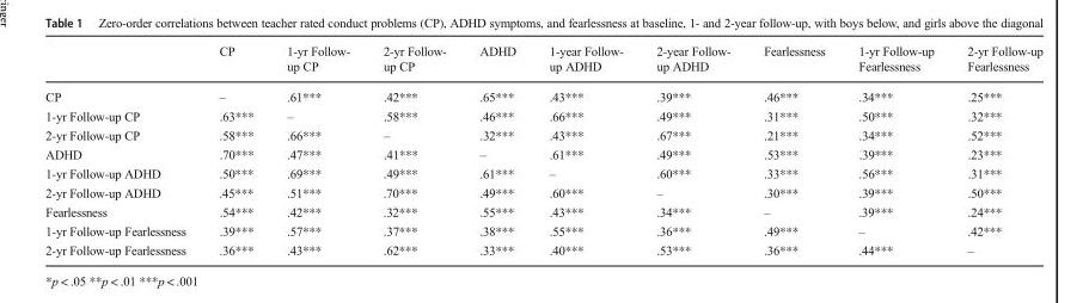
<table><thead><tr><td></td><td>CP</td><td>1-yr Follow- up CP</td><td>2-yr Follow- up CP</td><td>ADHD</td><td>1-year Follow- up ADHD</td><td>2-year Follow- up ADHD</td><td>Fearlessness</td><td>1-yr Follow-up Fearlessness</td><td>2-yr Follow-up Fearlessness</td></tr></thead><tbody><tr><td>CP</td><td>–</td><td>.61***</td><td>.42***</td><td>.65***</td><td>.43***</td><td>.39***</td><td>.46***</td><td>.34***</td><td>.25***</td></tr><tr><td>1-yr Follow-up CP</td><td>.63***</td><td>–</td><td>.58***</td><td>.46***</td><td>.66***</td><td>.49***</td><td>.31***</td><td>.50***</td><td>.32***</td></tr><tr><td>2-yr Follow-up CP</td><td>.58***</td><td>.66***</td><td>–</td><td>.32***</td><td>.43***</td><td>.67***</td><td>.21***</td><td>.34***</td><td>.52***</td></tr><tr><td>ADHD</td><td>.70***</td><td>.47***</td><td>.41***</td><td>–</td><td>.61***</td><td>.49***</td><td>.53***</td><td>.39***</td><td>.23***</td></tr><tr><td>1-yr Follow-up ADHD</td><td>.50***</td><td>.69***</td><td>.49***</td><td>.61***</td><td>–</td><td>.60***</td><td>.33***</td><td>.56***</td><td>.31***</td></tr><tr><td>2-yr Follow-up ADHD</td><td>.45***</td><td>.51***</td><td>.70***</td><td>.49***</td><td>.60***</td><td>–</td><td>.30***</td><td>.39***</td><td>.50***</td></tr><tr><td>Fearlessness</td><td>.54***</td><td>.42***</td><td>.32***</td><td>.55***</td><td>.43***</td><td>.34***</td><td>–</td><td>.39***</td><td>.24***</td></tr><tr><td>1-yr Follow-up Fearlessness</td><td>.39***</td><td>.57***</td><td>.37***</td><td>.38***</td><td>.55***</td><td>.36***</td><td>.49***</td><td>–</td><td>.42***</td></tr><tr><td>2-yr Follow-up Fearlessness</td><td>.36***</td><td>.43***</td><td>.62***</td><td>.33***</td><td>.40***</td><td>.53***</td><td>.36***</td><td>.44***</td><td>–</td></tr></tbody></table>